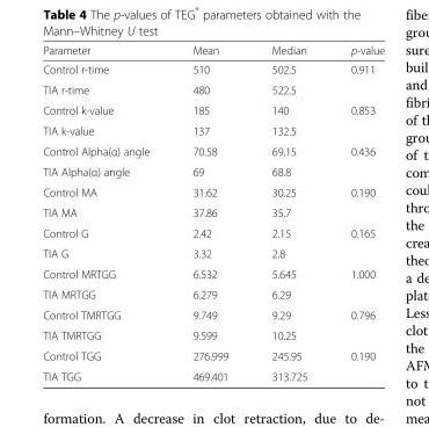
<table><thead><tr><td>Parameter</td><td>Mean</td><td>Median</td><td>p-value</td></tr></thead><tbody><tr><td>Control r-time</td><td>510</td><td>502.5</td><td rowspan="2">0.911</td></tr><tr><td>TIA r-time</td><td>480</td><td>522.5</td></tr><tr><td>Control k-value</td><td>185</td><td>140</td><td rowspan="2">0.853</td></tr><tr><td>TIA k-value</td><td>137</td><td>132.5</td></tr><tr><td>Control Alpha(α) angle</td><td>70.58</td><td>69.15</td><td rowspan="2">0.436</td></tr><tr><td>TIA Alpha(α) angle</td><td>69</td><td>68.8</td></tr><tr><td>Control MA</td><td>31.62</td><td>30.25</td><td rowspan="2">0.190</td></tr><tr><td>TIA MA</td><td>37.86</td><td>35.7</td></tr><tr><td>Control G</td><td>2.42</td><td>2.15</td><td rowspan="2">0.165</td></tr><tr><td>TIA G</td><td>3.32</td><td>2.8</td></tr><tr><td>Control MRTGG</td><td>6.532</td><td>5.645</td><td rowspan="2">1.000</td></tr><tr><td>TIA MRTGG</td><td>6.279</td><td>6.29</td></tr><tr><td>Control TMRTGG</td><td>9.749</td><td>9.29</td><td rowspan="2">0.796</td></tr><tr><td>TIA TMRTGG</td><td>9.599</td><td>10.25</td></tr><tr><td>Control TGG</td><td>276.999</td><td>245.95</td><td rowspan="2">0.190</td></tr><tr><td>TIA TGG</td><td>469.401</td><td>313.725</td></tr></tbody></table>